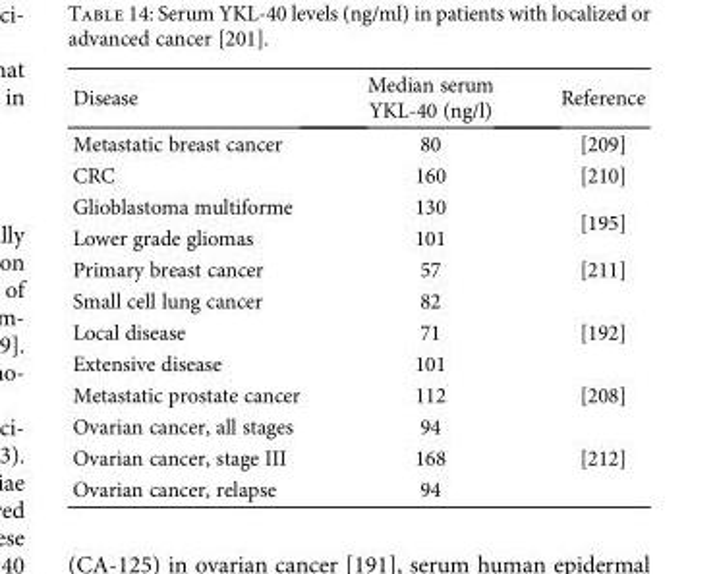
<table><thead><tr><td>Disease</td><td>Median serum YKL-40 (ng/l)</td><td>Reference</td></tr></thead><tbody><tr><td>Metastatic breast cancer</td><td>80</td><td>[209]</td></tr><tr><td>CRC</td><td>160</td><td>[210]</td></tr><tr><td>Glioblastoma multiforme</td><td>130</td><td rowspan="2">[195]</td></tr><tr><td>Lower grade gliomas</td><td>101</td></tr><tr><td>Primary breast cancer</td><td>57</td><td>[211]</td></tr><tr><td>Small cell lung cancer</td><td>82</td><td rowspan="3">[192]</td></tr><tr><td>Local disease</td><td>71</td></tr><tr><td>Extensive disease</td><td>101</td></tr><tr><td>Metastatic prostate cancer</td><td>112</td><td>[208]</td></tr><tr><td>Ovarian cancer, all stages</td><td>94</td><td rowspan="3">[212]</td></tr><tr><td>Ovarian cancer, stage III</td><td>168</td></tr><tr><td>Ovarian cancer, relapse</td><td>94</td></tr></tbody></table>